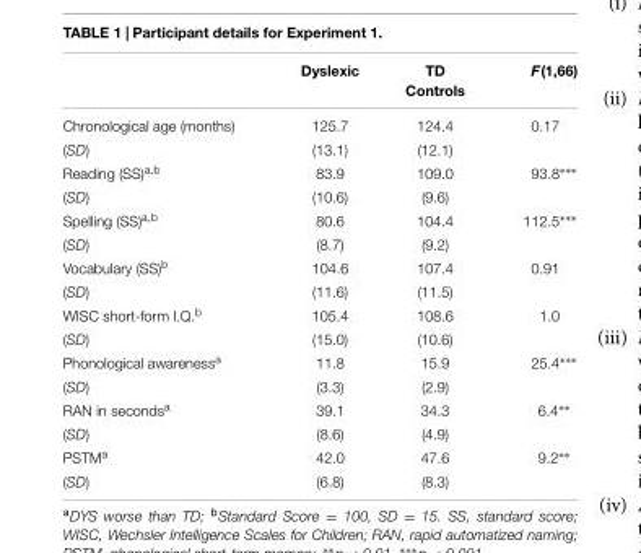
<table><thead><tr><td></td><td>Dyslexic</td><td>TD Controls</td><td>F(1,66)</td></tr></thead><tbody><tr><td>Chronological age (months)</td><td>125.7</td><td>124.4</td><td>0.17</td></tr><tr><td>(SD)</td><td>(13.1)</td><td>(12.1)</td><td></td></tr><tr><td>Reading (SS)<sup>a,b</sup></td><td>83.9</td><td>109.0</td><td>93.8∗∗∗</td></tr><tr><td>(SD)</td><td>(10.6)</td><td>(9.6)</td><td></td></tr><tr><td>Spelling (SS)<sup>a,b</sup></td><td>80.6</td><td>104.4</td><td>112.5∗∗∗</td></tr><tr><td>(SD)</td><td>(8.7)</td><td>(9.2)</td><td></td></tr><tr><td>Vocabulary (SS)<sup>b</sup></td><td>104.6</td><td>107.4</td><td>0.91</td></tr><tr><td>(SD)</td><td>(11.6)</td><td>(11.5)</td><td></td></tr><tr><td>WISC short-form I.Q.<sup>b</sup></td><td>105.4</td><td>108.6</td><td>1.0</td></tr><tr><td>(SD)</td><td>(15.0)</td><td>(10.6)</td><td></td></tr><tr><td>Phonological awareness<sup>a</sup></td><td>11.8</td><td>15.9</td><td>25.4∗∗∗</td></tr><tr><td>(SD)</td><td>(3.3)</td><td>(2.9)</td><td></td></tr><tr><td>RAN in seconds<sup>a</sup></td><td>39.1</td><td>34.3</td><td>6.4∗∗</td></tr><tr><td>(SD)</td><td>(8.6)</td><td>(4.9)</td><td></td></tr><tr><td>PSTM<sup>a</sup></td><td>42.0</td><td>47.6</td><td>9.2∗∗</td></tr><tr><td>(SD)</td><td>(6.8)</td><td>(8.3)</td><td></td></tr></tbody></table>